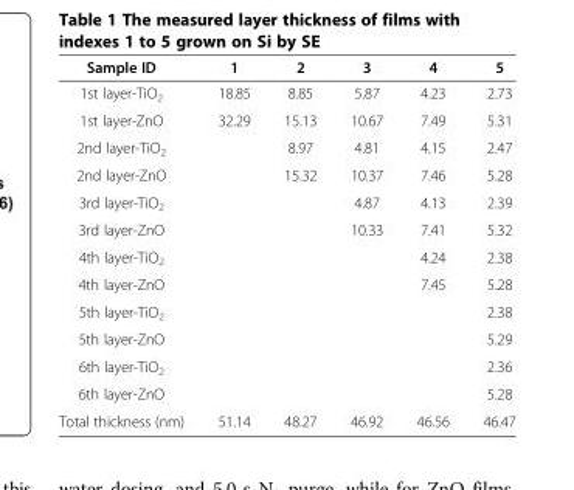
<table><thead><tr><td>Sample ID</td><td>1</td><td>2</td><td>3</td><td>4</td><td>5</td></tr></thead><tbody><tr><td>1st layer-TiO<sub>2</sub></td><td>18.85</td><td>8.85</td><td>5.87</td><td>4.23</td><td>2.73</td></tr><tr><td>1st layer-ZnO</td><td>32.29</td><td>15.13</td><td>10.67</td><td>7.49</td><td>5.31</td></tr><tr><td>2nd layer-TiO<sub>2</sub></td><td></td><td>8.97</td><td>4.81</td><td>4.15</td><td>2.47</td></tr><tr><td>2nd layer-ZnO</td><td></td><td>15.32</td><td>10.37</td><td>7.46</td><td>5.28</td></tr><tr><td>3rd layer-TiO<sub>2</sub></td><td></td><td></td><td>4.87</td><td>4.13</td><td>2.39</td></tr><tr><td>3rd layer-ZnO</td><td></td><td></td><td>10.33</td><td>7.41</td><td>5.32</td></tr><tr><td>4th layer-TiO<sub>2</sub></td><td></td><td></td><td></td><td>4.24</td><td>2.38</td></tr><tr><td>4th layer-ZnO</td><td></td><td></td><td></td><td>7.45</td><td>5.28</td></tr><tr><td>5th layer-TiO<sub>2</sub></td><td></td><td></td><td></td><td></td><td>2.38</td></tr><tr><td>5th layer-ZnO</td><td></td><td></td><td></td><td></td><td>5.29</td></tr><tr><td>6th layer-TiO<sub>2</sub></td><td></td><td></td><td></td><td></td><td>2.36</td></tr><tr><td>6th layer-ZnO</td><td></td><td></td><td></td><td></td><td>5.28</td></tr><tr><td>Total thickness (nm)</td><td>51.14</td><td>48.27</td><td>46.92</td><td>46.56</td><td>46.47</td></tr></tbody></table>